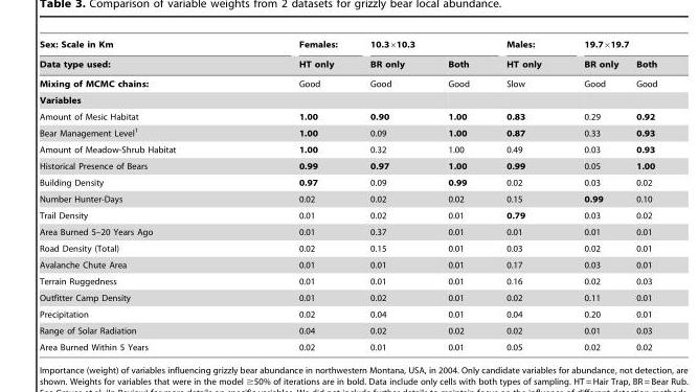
<table><thead><tr><td rowspan="2">Sex: Scale in Km Data type used:</td><td rowspan="2">Females: HT only</td><td colspan="2">10.3×10.3</td><td rowspan="2">Males: HT only</td><td colspan="2">19.7×19.7</td></tr><tr><td>BR only</td><td>Both</td><td>BR only</td><td>Both</td></tr></thead><tbody><tr><td>Mixing of MCMC chains:</td><td>Good</td><td>Good</td><td>Good</td><td>Slow</td><td>Good</td><td>Good</td></tr><tr><td colspan="7">Variables</td></tr><tr><td>Amount of Mesic Habitat</td><td>1.00</td><td>0.90</td><td>1.00</td><td>0.83</td><td>0.29</td><td>0.92</td></tr><tr><td>Bear Management Level<sup>1</sup></td><td>1.00</td><td>0.09</td><td>1.00</td><td>0.87</td><td>0.33</td><td>0.93</td></tr><tr><td>Amount of Meadow-Shrub Habitat</td><td>1.00</td><td>0.32</td><td>1.00</td><td>0.49</td><td>0.03</td><td>0.93</td></tr><tr><td>Historical Presence of Bears</td><td>0.99</td><td>0.97</td><td>1.00</td><td>0.99</td><td>0.05</td><td>1.00</td></tr><tr><td>Building Density</td><td>0.97</td><td>0.09</td><td>0.99</td><td>0.02</td><td>0.03</td><td>0.02</td></tr><tr><td>Number Hunter-Days</td><td>0.02</td><td>0.02</td><td>0.02</td><td>0.15</td><td>0.99</td><td>0.10</td></tr><tr><td>Trail Density</td><td>0.01</td><td>0.02</td><td>0.01</td><td>0.79</td><td>0.03</td><td>0.02</td></tr><tr><td>Area Burned 5–20 Years Ago</td><td>0.01</td><td>0.37</td><td>0.01</td><td>0.01</td><td>0.01</td><td>0.01</td></tr><tr><td>Road Density (Total)</td><td>0.02</td><td>0.15</td><td>0.01</td><td>0.03</td><td>0.02</td><td>0.01</td></tr><tr><td>Avalanche Chute Area</td><td>0.01</td><td>0.01</td><td>0.01</td><td>0.17</td><td>0.03</td><td>0.01</td></tr><tr><td>Terrain Ruggedness</td><td>0.01</td><td>0.01</td><td>0.01</td><td>0.16</td><td>0.02</td><td>0.03</td></tr><tr><td>Outfitter Camp Density</td><td>0.01</td><td>0.02</td><td>0.01</td><td>0.02</td><td>0.11</td><td>0.01</td></tr><tr><td>Precipitation</td><td>0.02</td><td>0.04</td><td>0.01</td><td>0.04</td><td>0.20</td><td>0.01</td></tr><tr><td>Range of Solar Radiation</td><td>0.04</td><td>0.02</td><td>0.02</td><td>0.02</td><td>0.01</td><td>0.03</td></tr><tr><td>Area Burned Within 5 Years</td><td>0.02</td><td>0.01</td><td>0.01</td><td>0.05</td><td>0.02</td><td>0.02</td></tr></tbody></table>